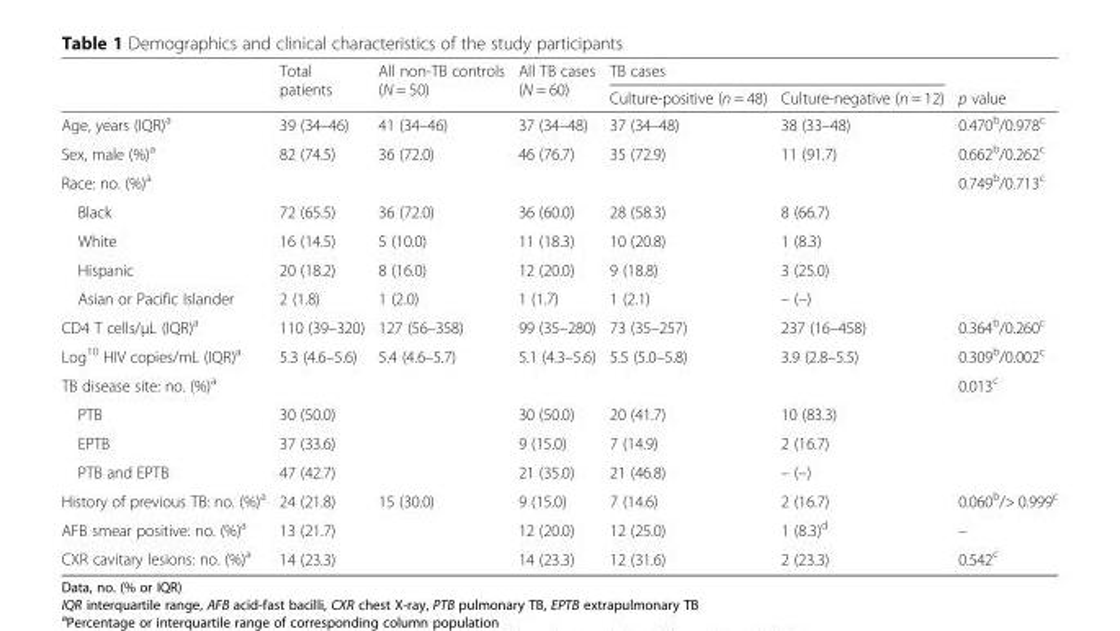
<table><thead><tr><td rowspan="2"></td><td rowspan="2">Total patients</td><td rowspan="2">All non-TB controls (N = 50)</td><td rowspan="2">All TB cases (N = 60)</td><td colspan="2">TB cases</td><td rowspan="2">p value</td></tr><tr><td>Culture-positive (n = 48)</td><td>Culture-negative (n = 12)</td></tr></thead><tbody><tr><td>Age, years (IQR)<sup>a</sup></td><td>39 (34–46)</td><td>41 (34–46)</td><td>37 (34–48)</td><td>37 (34–48)</td><td>38 (33–48)</td><td>0.470<sup>b</sup>/0.978<sup>c</sup></td></tr><tr><td>Sex, male (%)<sup>a</sup></td><td>82 (74.5)</td><td>36 (72.0)</td><td>46 (76.7)</td><td>35 (72.9)</td><td>11 (91.7)</td><td>0.662<sup>b</sup>/0.262<sup>c</sup></td></tr><tr><td>Race: no. (%)<sup>a</sup></td><td></td><td></td><td></td><td></td><td></td><td>0.749<sup>b</sup>/0.713<sup>c</sup></td></tr><tr><td>Black</td><td>72 (65.5)</td><td>36 (72.0)</td><td>36 (60.0)</td><td>28 (58.3)</td><td>8 (66.7)</td><td></td></tr><tr><td>White</td><td>16 (14.5)</td><td>5 (10.0)</td><td>11 (18.3)</td><td>10 (20.8)</td><td>1 (8.3)</td><td></td></tr><tr><td>Hispanic</td><td>20 (18.2)</td><td>8 (16.0)</td><td>12 (20.0)</td><td>9 (18.8)</td><td>3 (25.0)</td><td></td></tr><tr><td>Asian or Pacific Islander</td><td>2 (1.8)</td><td>1 (2.0)</td><td>1 (1.7)</td><td>1 (2.1)</td><td>– (–)</td><td></td></tr><tr><td>CD4 T cells/μL (IQR)<sup>a</sup></td><td>110 (39–320)</td><td>127 (56–358)</td><td>99 (35–280)</td><td>73 (35–257)</td><td>237 (16–458)</td><td>0.364<sup>b</sup>/0.260<sup>c</sup></td></tr><tr><td>Log<sup>10</sup> HIV copies/mL (IQR)<sup>a</sup></td><td>5.3 (4.6–5.6)</td><td>5.4 (4.6–5.7)</td><td>5.1 (4.3–5.6)</td><td>5.5 (5.0–5.8)</td><td>3.9 (2.8–5.5)</td><td>0.309<sup>b</sup>/0.002<sup>c</sup></td></tr><tr><td>TB disease site: no. (%)<sup>a</sup></td><td></td><td></td><td></td><td></td><td></td><td>0.013<sup>c</sup></td></tr><tr><td>PTB</td><td>30 (50.0)</td><td></td><td>30 (50.0)</td><td>20 (41.7)</td><td>10 (83.3)</td><td></td></tr><tr><td>EPTB</td><td>37 (33.6)</td><td></td><td>9 (15.0)</td><td>7 (14.9)</td><td>2 (16.7)</td><td></td></tr><tr><td>PTB and EPTB</td><td>47 (42.7)</td><td></td><td>21 (35.0)</td><td>21 (46.8)</td><td>– (–)</td><td></td></tr><tr><td>History of previous TB: no. (%)<sup>a</sup></td><td>24 (21.8)</td><td>15 (30.0)</td><td>9 (15.0)</td><td>7 (14.6)</td><td>2 (16.7)</td><td>0.060<sup>b</sup>/&gt; 0.999<sup>c</sup></td></tr><tr><td>AFB smear positive: no. (%)<sup>a</sup></td><td>13 (21.7)</td><td></td><td>12 (20.0)</td><td>12 (25.0)</td><td>1 (8.3)<sup>d</sup></td><td>–</td></tr><tr><td>CXR cavitary lesions: no. (%)<sup>a</sup></td><td>14 (23.3)</td><td></td><td>14 (23.3)</td><td>12 (31.6)</td><td>2 (23.3)</td><td>0.542<sup>c</sup></td></tr></tbody></table>